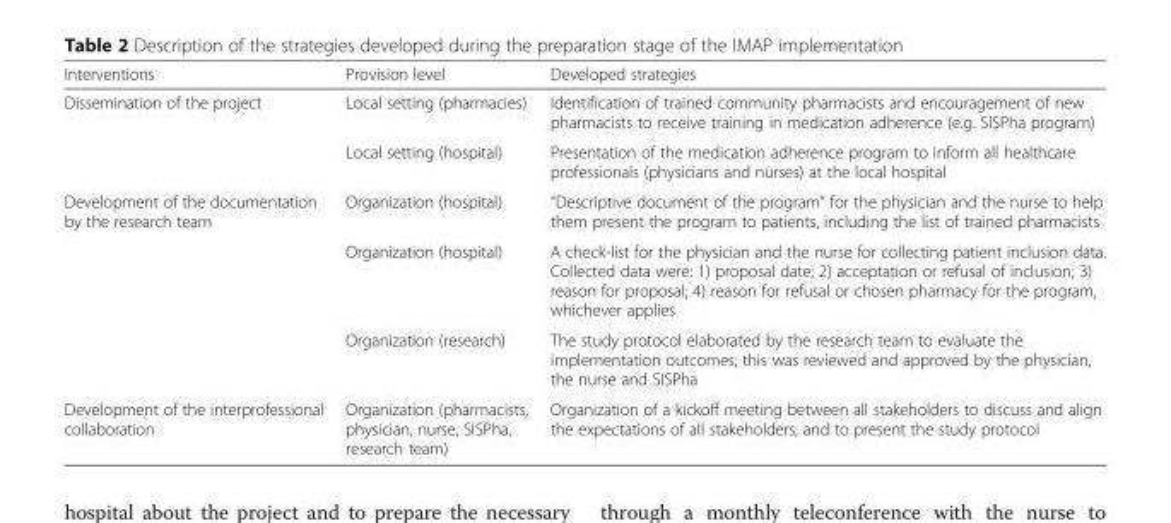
<table><thead><tr><td>Interventions</td><td>Provision level</td><td>Developed strategies</td></tr></thead><tbody><tr><td rowspan="2">Dissemination of the project</td><td>Local setting (pharmacies)</td><td>Identification of trained community pharmacists and encouragement of new pharmacists to receive training in medication adherence (e.g. SISPha program)</td></tr><tr><td>Local setting (hospital)</td><td>Presentation of the medication adherence program to inform all healthcare professionals (physicians and nurses) at the local hospital</td></tr><tr><td rowspan="3">Development of the documentation by the research team</td><td>Organization (hospital)</td><td>“Descriptive document of the program” for the physician and the nurse to help them present the program to patients, including the list of trained pharmacists</td></tr><tr><td>Organization (hospital)</td><td>A check-list for the physician and the nurse for collecting patient inclusion data. Collected data were: 1) proposal date; 2) acceptation or refusal of inclusion; 3) reason for proposal; 4) reason for refusal or chosen pharmacy for the program, whichever applies</td></tr><tr><td>Organization (research)</td><td>The study protocol elaborated by the research team to evaluate the implementation outcomes; this was reviewed and approved by the physician, the nurse and SISPha</td></tr><tr><td>Development of the interprofessional collaboration</td><td>Organization (pharmacists, physician, nurse, SISPha, research team)</td><td>Organization of a kickoff meeting between all stakeholders to discuss and align the expectations of all stakeholders, and to present the study protocol</td></tr></tbody></table>